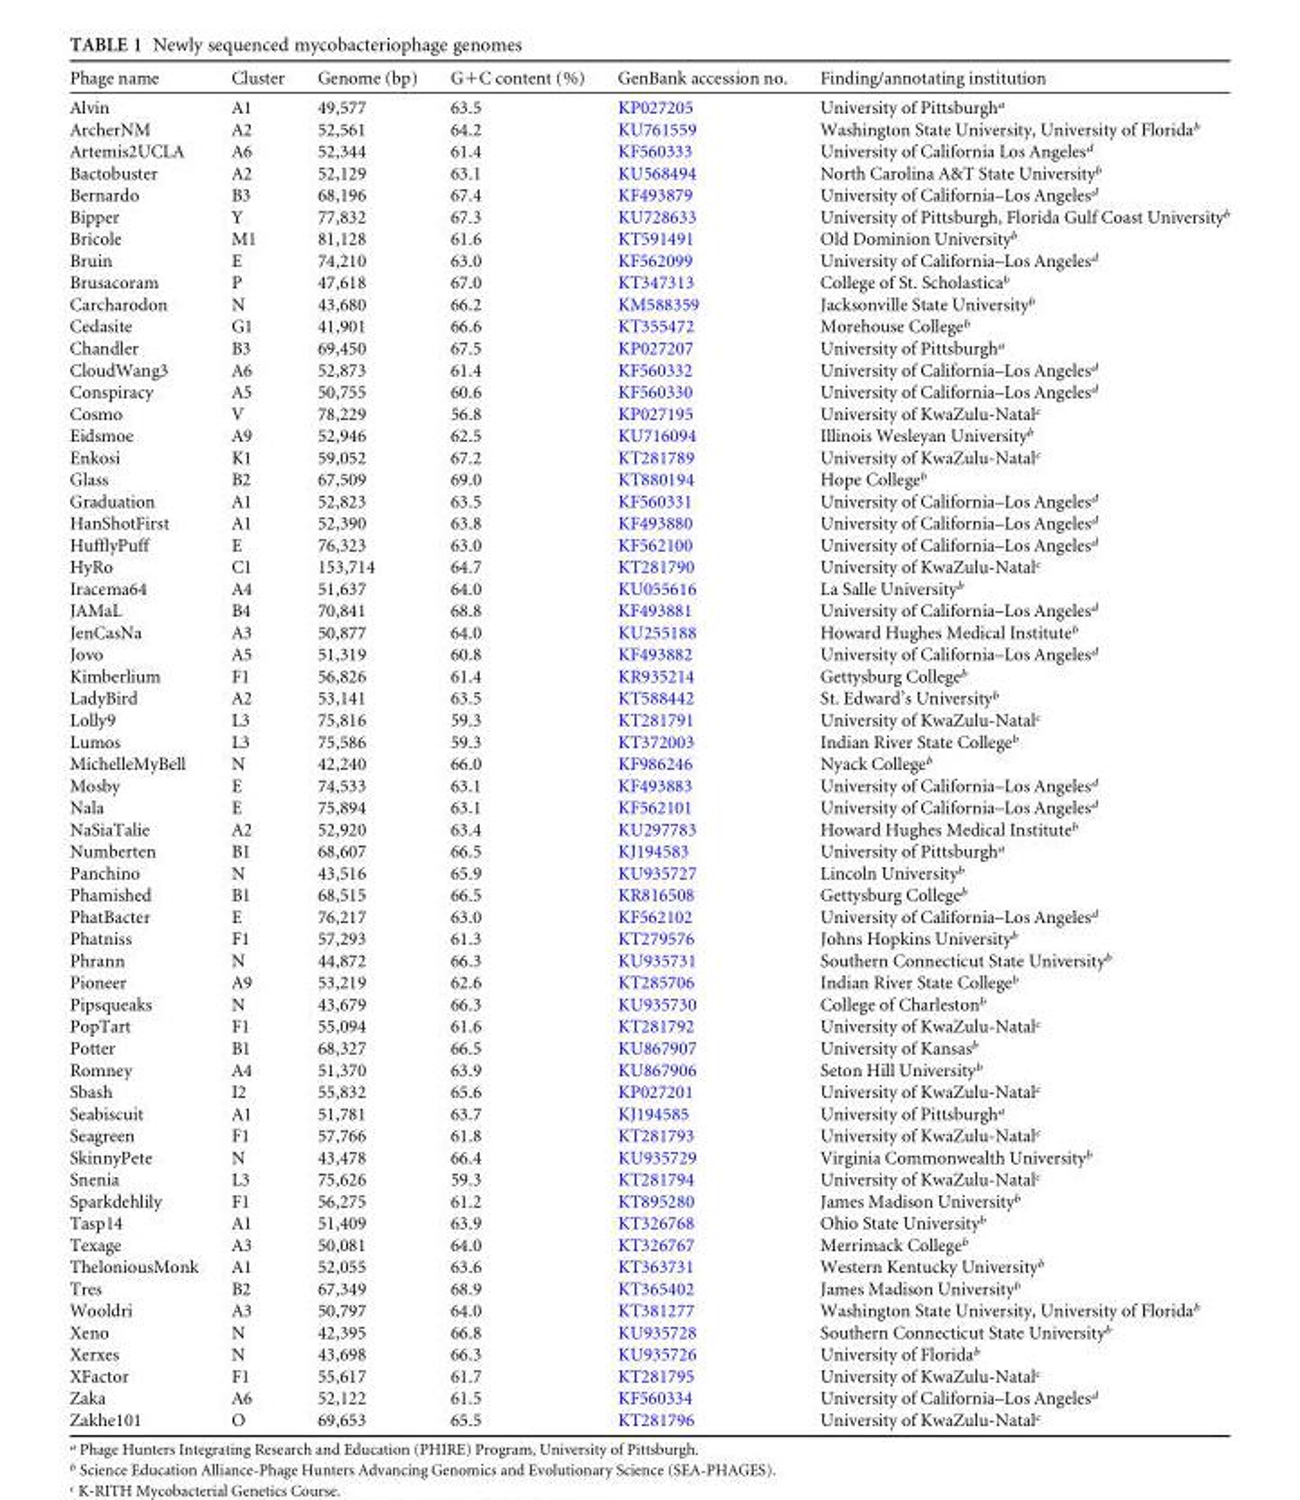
<table><thead><tr><td>Phage name</td><td>Cluster</td><td>Genome (bp)</td><td>G+C content (%)</td><td>GenBank accession no.</td><td>Finding/annotating institution</td></tr></thead><tbody><tr><td>Alvin</td><td>A1</td><td>49,577</td><td>63.5</td><td>KP027205</td><td>University of Pittsburgh<sup>a</sup></td></tr><tr><td>ArcherNM</td><td>A2</td><td>52,561</td><td>64.2</td><td>KU761559</td><td>Washington State University, University of Florida<sup>b</sup></td></tr><tr><td>Artemis2UCLA</td><td>A6</td><td>52,344</td><td>61.4</td><td>KF560333</td><td>University of California Los Angeles<sup>d</sup></td></tr><tr><td>Bactobuster</td><td>A2</td><td>52,129</td><td>63.1</td><td>KU568494</td><td>North Carolina A&amp;T State University<sup>b</sup></td></tr><tr><td>Bernardo</td><td>B3</td><td>68,196</td><td>67.4</td><td>KF493879</td><td>University of California–Los Angeles<sup>d</sup></td></tr><tr><td>Bipper</td><td>Y</td><td>77,832</td><td>67.3</td><td>KU728633</td><td>University of Pittsburgh, Florida Gulf Coast University<sup>b</sup></td></tr><tr><td>Bricole</td><td>M1</td><td>81,128</td><td>61.6</td><td>KT591491</td><td>Old Dominion University<sup>b</sup></td></tr><tr><td>Bruin</td><td>E</td><td>74,210</td><td>63.0</td><td>KF562099</td><td>University of California–Los Angeles<sup>d</sup></td></tr><tr><td>Brusacoram</td><td>P</td><td>47,618</td><td>67.0</td><td>KT347313</td><td>College of St. Scholastica<sup>b</sup></td></tr><tr><td>Carcharodon</td><td>N</td><td>43,680</td><td>66.2</td><td>KM588359</td><td>Jacksonville State University<sup>b</sup></td></tr><tr><td>Cedasite</td><td>G1</td><td>41,901</td><td>66.6</td><td>KT355472</td><td>Morehouse College<sup>b</sup></td></tr><tr><td>Chandler</td><td>B3</td><td>69,450</td><td>67.5</td><td>KP027207</td><td>University of Pittsburgh<sup>a</sup></td></tr><tr><td>CloudWang3</td><td>A6</td><td>52,873</td><td>61.4</td><td>KF560332</td><td>University of California–Los Angeles<sup>d</sup></td></tr><tr><td>Conspiracy</td><td>A5</td><td>50,755</td><td>60.6</td><td>KF560330</td><td>University of California–Los Angeles<sup>d</sup></td></tr><tr><td>Cosmo</td><td>V</td><td>78,229</td><td>56.8</td><td>KP027195</td><td>University of KwaZulu-Natal<sup>c</sup></td></tr><tr><td>Eidsmoe</td><td>A9</td><td>52,946</td><td>62.5</td><td>KU716094</td><td>Illinois Wesleyan University<sup>b</sup></td></tr><tr><td>Enkosi</td><td>K1</td><td>59,052</td><td>67.2</td><td>KT281789</td><td>University of KwaZulu-Natal<sup>c</sup></td></tr><tr><td>Glass</td><td>B2</td><td>67,509</td><td>69.0</td><td>KT880194</td><td>Hope College<sup>b</sup></td></tr><tr><td>Graduation</td><td>A1</td><td>52,823</td><td>63.5</td><td>KF560331</td><td>University of California–Los Angeles<sup>d</sup></td></tr><tr><td>HanShotFirst</td><td>A1</td><td>52,390</td><td>63.8</td><td>KF493880</td><td>University of California–Los Angeles<sup>d</sup></td></tr><tr><td>HufflyPuff</td><td>E</td><td>76,323</td><td>63.0</td><td>KF562100</td><td>University of California–Los Angeles<sup>d</sup></td></tr><tr><td>HyRo</td><td>C1</td><td>153,714</td><td>64.7</td><td>KT281790</td><td>University of KwaZulu-Natal<sup>c</sup></td></tr><tr><td>Iracema64</td><td>A4</td><td>51,637</td><td>64.0</td><td>KU055616</td><td>La Salle University<sup>b</sup></td></tr><tr><td>JAMaL</td><td>B4</td><td>70,841</td><td>68.8</td><td>KF493881</td><td>University of California–Los Angeles<sup>d</sup></td></tr><tr><td>JenCasNa</td><td>A3</td><td>50,877</td><td>64.0</td><td>KU255188</td><td>Howard Hughes Medical Institute<sup>b</sup></td></tr><tr><td>Jovo</td><td>A5</td><td>51,319</td><td>60.8</td><td>KF493882</td><td>University of California–Los Angeles<sup>d</sup></td></tr><tr><td>Kimberlium</td><td>F1</td><td>56,826</td><td>61.4</td><td>KR935214</td><td>Gettysburg College<sup>b</sup></td></tr><tr><td>LadyBird</td><td>A2</td><td>53,141</td><td>63.5</td><td>KT588442</td><td>St. Edward’s University<sup>b</sup></td></tr><tr><td>Lolly9</td><td>L3</td><td>75,816</td><td>59.3</td><td>KT281791</td><td>University of KwaZulu-Natal<sup>c</sup></td></tr><tr><td>Lumos</td><td>L3</td><td>75,586</td><td>59.3</td><td>KT372003</td><td>Indian River State College<sup>b</sup></td></tr><tr><td>MichelleMyBell</td><td>N</td><td>42,240</td><td>66.0</td><td>KF986246</td><td>Nyack College<sup>b</sup></td></tr><tr><td>Mosby</td><td>E</td><td>74,533</td><td>63.1</td><td>KF493883</td><td>University of California–Los Angeles<sup>d</sup></td></tr><tr><td>Nala</td><td>E</td><td>75,894</td><td>63.1</td><td>KF562101</td><td>University of California–Los Angeles<sup>d</sup></td></tr><tr><td>NaSiaTalie</td><td>A2</td><td>52,920</td><td>63.4</td><td>KU297783</td><td>Howard Hughes Medical Institute<sup>b</sup></td></tr><tr><td>Numberten</td><td>B1</td><td>68,607</td><td>66.5</td><td>KJ194583</td><td>University of Pittsburgh<sup>a</sup></td></tr><tr><td>Panchino</td><td>N</td><td>43,516</td><td>65.9</td><td>KU935727</td><td>Lincoln University<sup>b</sup></td></tr><tr><td>Phamished</td><td>B1</td><td>68,515</td><td>66.5</td><td>KR816508</td><td>Gettysburg College<sup>b</sup></td></tr><tr><td>PhatBacter</td><td>E</td><td>76,217</td><td>63.0</td><td>KF562102</td><td>University of California–Los Angeles<sup>d</sup></td></tr><tr><td>Phatniss</td><td>F1</td><td>57,293</td><td>61.3</td><td>KT279576</td><td>Johns Hopkins University<sup>b</sup></td></tr><tr><td>Phrann</td><td>N</td><td>44,872</td><td>66.3</td><td>KU935731</td><td>Southern Connecticut State University<sup>b</sup></td></tr><tr><td>Pioneer</td><td>A9</td><td>53,219</td><td>62.6</td><td>KT285706</td><td>Indian River State College<sup>b</sup></td></tr><tr><td>Pipsqueaks</td><td>N</td><td>43,679</td><td>66.3</td><td>KU935730</td><td>College of Charleston<sup>b</sup></td></tr><tr><td>PopTart</td><td>F1</td><td>55,094</td><td>61.6</td><td>KT281792</td><td>University of KwaZulu-Natal<sup>c</sup></td></tr><tr><td>Potter</td><td>B1</td><td>68,327</td><td>66.5</td><td>KU867907</td><td>University of Kansas<sup>b</sup></td></tr><tr><td>Romney</td><td>A4</td><td>51,370</td><td>63.9</td><td>KU867906</td><td>Seton Hill University<sup>b</sup></td></tr><tr><td>Sbash</td><td>I2</td><td>55,832</td><td>65.6</td><td>KP027201</td><td>University of KwaZulu-Natal<sup>c</sup></td></tr><tr><td>Seabiscuit</td><td>A1</td><td>51,781</td><td>63.7</td><td>KJ194585</td><td>University of Pittsburgh<sup>a</sup></td></tr><tr><td>Seagreen</td><td>F1</td><td>57,766</td><td>61.8</td><td>KT281793</td><td>University of KwaZulu-Natal<sup>c</sup></td></tr><tr><td>SkinnyPete</td><td>N</td><td>43,478</td><td>66.4</td><td>KU935729</td><td>Virginia Commonwealth University<sup>b</sup></td></tr><tr><td>Snenia</td><td>L3</td><td>75,626</td><td>59.3</td><td>KT281794</td><td>University of KwaZulu-Natal<sup>c</sup></td></tr><tr><td>Sparkdehlily</td><td>F1</td><td>56,275</td><td>61.2</td><td>KT895280</td><td>James Madison University<sup>b</sup></td></tr><tr><td>Tasp14</td><td>A1</td><td>51,409</td><td>63.9</td><td>KT326768</td><td>Ohio State University<sup>b</sup></td></tr><tr><td>Texage</td><td>A3</td><td>50,081</td><td>64.0</td><td>KT326767</td><td>Merrimack College<sup>b</sup></td></tr><tr><td>TheloniousMonk</td><td>A1</td><td>52,055</td><td>63.6</td><td>KT363731</td><td>Western Kentucky University<sup>b</sup></td></tr><tr><td>Tres</td><td>B2</td><td>67,349</td><td>68.9</td><td>KT365402</td><td>James Madison University<sup>b</sup></td></tr><tr><td>Wooldri</td><td>A3</td><td>50,797</td><td>64.0</td><td>KT381277</td><td>Washington State University, University of Florida<sup>b</sup></td></tr><tr><td>Xeno</td><td>N</td><td>42,395</td><td>66.8</td><td>KU935728</td><td>Southern Connecticut State University<sup>b</sup></td></tr><tr><td>Xerxes</td><td>N</td><td>43,698</td><td>66.3</td><td>KU935726</td><td>University of Florida<sup>b</sup></td></tr><tr><td>XFactor</td><td>F1</td><td>55,617</td><td>61.7</td><td>KT281795</td><td>University of KwaZulu-Natal<sup>c</sup></td></tr><tr><td>Zaka</td><td>A6</td><td>52,122</td><td>61.5</td><td>KF560334</td><td>University of California–Los Angeles<sup>d</sup></td></tr><tr><td>Zakhe101</td><td>O</td><td>69,653</td><td>65.5</td><td>KT281796</td><td>University of KwaZulu-Natal<sup>c</sup></td></tr></tbody></table>